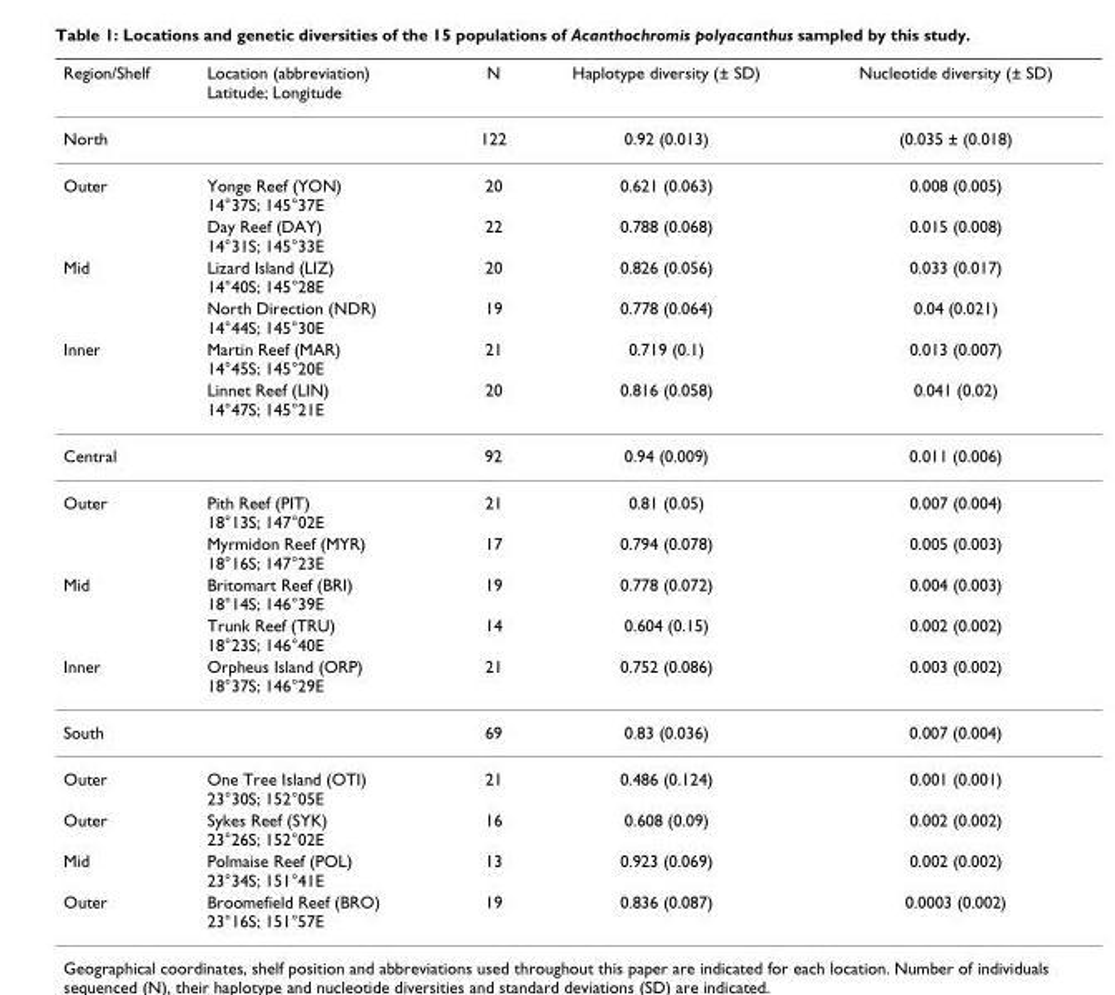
<table><thead><tr><td>Region/Shelf</td><td>Location (abbreviation) Latitude; Longitude</td><td>N</td><td>Haplotype diversity (± SD)</td><td>Nucleotide diversity (± SD)</td></tr></thead><tbody><tr><td>North</td><td></td><td>122</td><td>0.92 (0.013)</td><td>(0.035 ± (0.018)</td></tr><tr><td rowspan="2">Outer</td><td>Yonge Reef (YON) 14°37S; 145°37E</td><td>20</td><td>0.621 (0.063)</td><td>0.008 (0.005)</td></tr><tr><td>Day Reef (DAY) 14°31S; 145°33E</td><td>22</td><td>0.788 (0.068)</td><td>0.015 (0.008)</td></tr><tr><td rowspan="2">Mid</td><td>Lizard Island (LIZ) 14°40S; 145°28E</td><td>20</td><td>0.826 (0.056)</td><td>0.033 (0.017)</td></tr><tr><td>North Direction (NDR) 14°44S; 145°30E</td><td>19</td><td>0.778 (0.064)</td><td>0.04 (0.021)</td></tr><tr><td rowspan="2">Inner</td><td>Martin Reef (MAR) 14°45S; 145°20E</td><td>21</td><td>0.719 (0.1)</td><td>0.013 (0.007)</td></tr><tr><td>Linnet Reef (LIN) 14°47S; 145°21E</td><td>20</td><td>0.816 (0.058)</td><td>0.041 (0.02)</td></tr><tr><td>Central</td><td></td><td>92</td><td>0.94 (0.009)</td><td>0.011 (0.006)</td></tr><tr><td rowspan="2">Outer</td><td>Pith Reef (PIT) 18°13S; 147°02E</td><td>21</td><td>0.81 (0.05)</td><td>0.007 (0.004)</td></tr><tr><td>Myrmidon Reef (MYR) 18°16S; 147°23E</td><td>17</td><td>0.794 (0.078)</td><td>0.005 (0.003)</td></tr><tr><td rowspan="2">Mid</td><td>Britomart Reef (BRI) 18°14S; 146°39E</td><td>19</td><td>0.778 (0.072)</td><td>0.004 (0.003)</td></tr><tr><td>Trunk Reef (TRU) 18°23S; 146°40E</td><td>14</td><td>0.604 (0.15)</td><td>0.002 (0.002)</td></tr><tr><td>Inner</td><td>Orpheus Island (ORP) 18°37S; 146°29E</td><td>21</td><td>0.752 (0.086)</td><td>0.003 (0.002)</td></tr><tr><td>South</td><td></td><td>69</td><td>0.83 (0.036)</td><td>0.007 (0.004)</td></tr><tr><td>Outer</td><td>One Tree Island (OTI) 23°30S; 152°05E</td><td>21</td><td>0.486 (0.124)</td><td>0.001 (0.001)</td></tr><tr><td>Outer</td><td>Sykes Reef (SYK) 23°26S; 152°02E</td><td>16</td><td>0.608 (0.09)</td><td>0.002 (0.002)</td></tr><tr><td>Mid</td><td>Polmaise Reef (POL) 23°34S; 151°41E</td><td>13</td><td>0.923 (0.069)</td><td>0.002 (0.002)</td></tr><tr><td>Outer</td><td>Broomefield Reef (BRO) 23°16S; 151°57E</td><td>19</td><td>0.836 (0.087)</td><td>0.0003 (0.002)</td></tr></tbody></table>